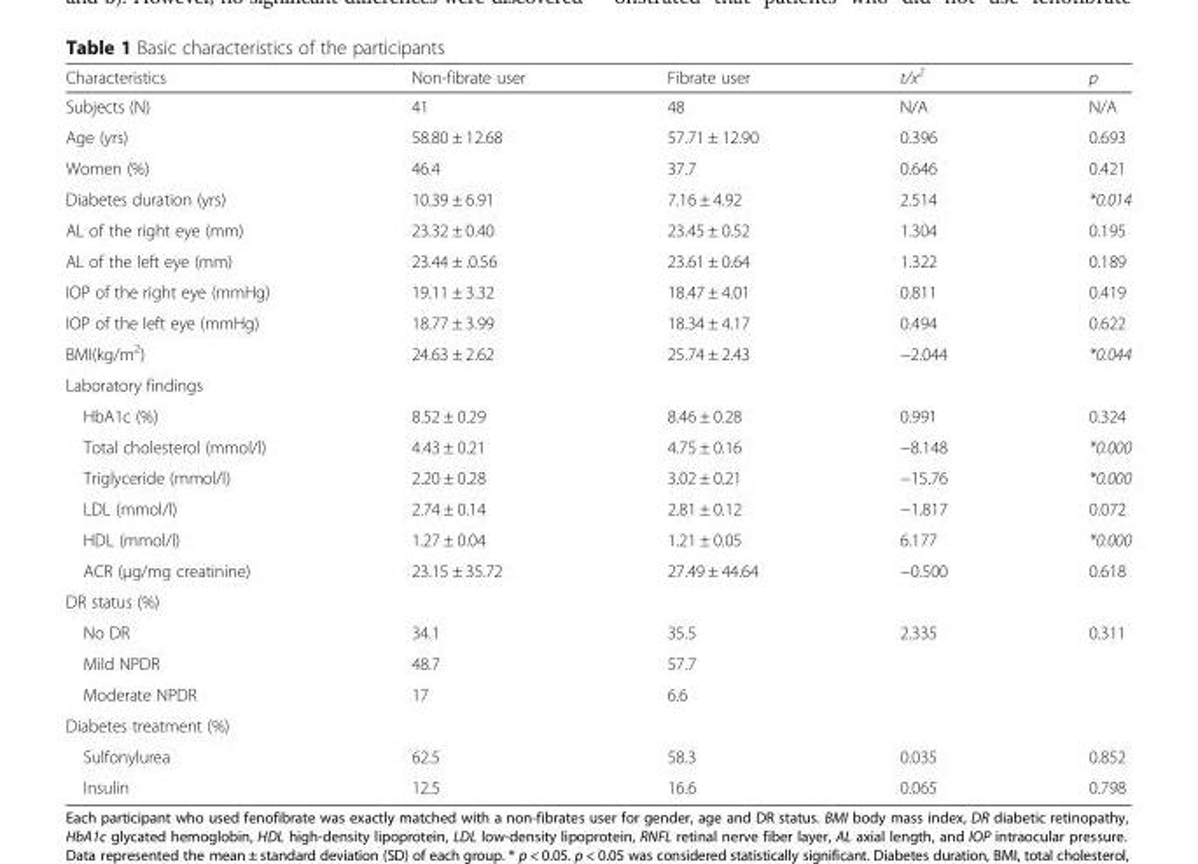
<table><thead><tr><td>Characteristics</td><td>Non-fibrate user</td><td>Fibrate user</td><td>t/x<sup>2</sup></td><td>p</td></tr></thead><tbody><tr><td>Subjects (N)</td><td>41</td><td>48</td><td>N/A</td><td>N/A</td></tr><tr><td>Age (yrs)</td><td>58.80 ± 12.68</td><td>57.71 ± 12.90</td><td>0.396</td><td>0.693</td></tr><tr><td>Women (%)</td><td>46.4</td><td>37.7</td><td>0.646</td><td>0.421</td></tr><tr><td>Diabetes duration (yrs)</td><td>10.39 ± 6.91</td><td>7.16 ± 4.92</td><td>2.514</td><td>*0.014</td></tr><tr><td>AL of the right eye (mm)</td><td>23.32 ± 0.40</td><td>23.45 ± 0.52</td><td>1.304</td><td>0.195</td></tr><tr><td>AL of the left eye (mm)</td><td>23.44 ± .0.56</td><td>23.61 ± 0.64</td><td>1.322</td><td>0.189</td></tr><tr><td>IOP of the right eye (mmHg)</td><td>19.11 ± 3.32</td><td>18.47 ± 4.01</td><td>0.811</td><td>0.419</td></tr><tr><td>IOP of the left eye (mmHg)</td><td>18.77 ± 3.99</td><td>18.34 ± 4.17</td><td>0.494</td><td>0.622</td></tr><tr><td>BMI(kg/m<sup>2</sup>)</td><td>24.63 ± 2.62</td><td>25.74 ± 2.43</td><td>−2.044</td><td>*0.044</td></tr><tr><td colspan="5">Laboratory findings</td></tr><tr><td>HbA1c (%)</td><td>8.52 ± 0.29</td><td>8.46 ± 0.28</td><td>0.991</td><td>0.324</td></tr><tr><td>Total cholesterol (mmol/l)</td><td>4.43 ± 0.21</td><td>4.75 ± 0.16</td><td>−8.148</td><td>*0.000</td></tr><tr><td>Triglyceride (mmol/l)</td><td>2.20 ± 0.28</td><td>3.02 ± 0.21</td><td>−15.76</td><td>*0.000</td></tr><tr><td>LDL (mmol/l)</td><td>2.74 ± 0.14</td><td>2.81 ± 0.12</td><td>−1.817</td><td>0.072</td></tr><tr><td>HDL (mmol/l)</td><td>1.27 ± 0.04</td><td>1.21 ± 0.05</td><td>6.177</td><td>*0.000</td></tr><tr><td>ACR (μg/mg creatinine)</td><td>23.15 ± 35.72</td><td>27.49 ± 44.64</td><td>−0.500</td><td>0.618</td></tr><tr><td colspan="5">DR status (%)</td></tr><tr><td>No DR</td><td>34.1</td><td>35.5</td><td rowspan="3">2.335</td><td rowspan="3">0.311</td></tr><tr><td>Mild NPDR</td><td>48.7</td><td>57.7</td></tr><tr><td>Moderate NPDR</td><td>17</td><td>6.6</td></tr><tr><td colspan="5">Diabetes treatment (%)</td></tr><tr><td>Sulfonylurea</td><td>62.5</td><td>58.3</td><td>0.035</td><td>0.852</td></tr><tr><td>Insulin</td><td>12.5</td><td>16.6</td><td>0.065</td><td>0.798</td></tr></tbody></table>